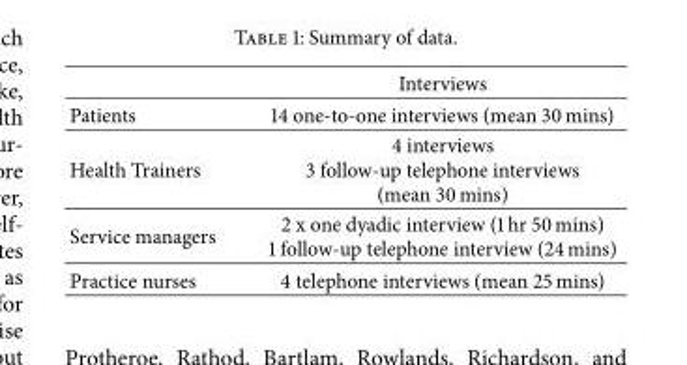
<table><thead><tr><td></td><td>Interviews</td></tr></thead><tbody><tr><td>Patients</td><td>14 one-to-one interviews (mean 30 mins)</td></tr><tr><td>Health Trainers</td><td>4 interviews 3 follow-up telephone interviews (mean 30 mins)</td></tr><tr><td>Service managers</td><td>2 x one dyadic interview (1 hr 50 mins) 1 follow-up telephone interview (24 mins)</td></tr><tr><td>Practice nurses</td><td>4 telephone interviews (mean 25 mins)</td></tr></tbody></table>